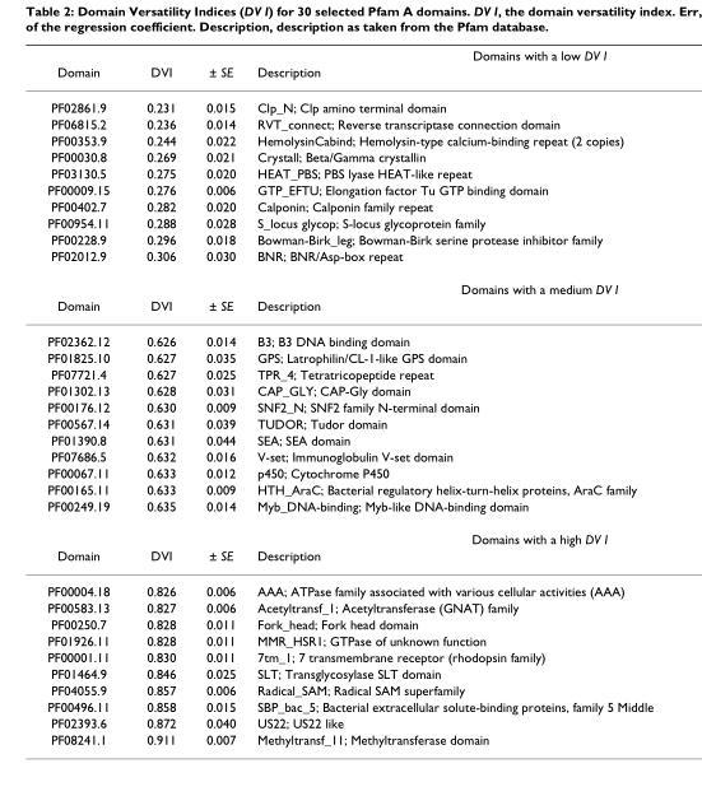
<table><thead><tr><td rowspan="2">Domain</td><td rowspan="2">DVI</td><td rowspan="2">± SE</td><td rowspan="2">Domains with a low DV I Description</td></tr><tr></tr></thead><tbody><tr><td>PF02861.9</td><td>0.231</td><td>0.015</td><td>Clp_N; Clp amino terminal domain</td></tr><tr><td>PF06815.2</td><td>0.236</td><td>0.014</td><td>RVT_connect; Reverse transcriptase connection domain</td></tr><tr><td>PF00353.9</td><td>0.244</td><td>0.022</td><td>HemolysinCabind; Hemolysin-type calcium-binding repeat (2 copies)</td></tr><tr><td>PF00030.8</td><td>0.269</td><td>0.021</td><td>Crystall; Beta/Gamma crystallin</td></tr><tr><td>PF03130.5</td><td>0.275</td><td>0.020</td><td>HEAT_PBS; PBS lyase HEAT-like repeat</td></tr><tr><td>PF00009.15</td><td>0.276</td><td>0.006</td><td>GTP_EFTU; Elongation factor Tu GTP binding domain</td></tr><tr><td>PF00402.7</td><td>0.282</td><td>0.020</td><td>Calponin; Calponin family repeat</td></tr><tr><td>PF00954.11</td><td>0.288</td><td>0.028</td><td>S_locus glycop; S-locus glycoprotein family</td></tr><tr><td>PF00228.9</td><td>0.296</td><td>0.018</td><td>Bowman-Birk_leg; Bowman-Birk serine protease inhibitor family</td></tr><tr><td rowspan="2">PF02012.9</td><td>0.306</td><td>0.030</td><td>BNR; BNR/Asp-box repeat</td></tr><tr><td></td><td></td><td>Domains with a medium DV I</td></tr><tr><td>Domain</td><td>DVI</td><td>± SE</td><td>Description</td></tr><tr><td>PF02362.12</td><td>0.626</td><td>0.014</td><td>B3; B3 DNA binding domain</td></tr><tr><td>PF01825.10</td><td>0.627</td><td>0.035</td><td>GPS; Latrophilin/CL-1-like GPS domain</td></tr><tr><td>PF07721.4</td><td>0.627</td><td>0.025</td><td>TPR_4; Tetratricopeptide repeat</td></tr><tr><td>PF01302.13</td><td>0.628</td><td>0.031</td><td>CAP_GLY; CAP-Gly domain</td></tr><tr><td>PF00176.12</td><td>0.630</td><td>0.009</td><td>SNF2_N; SNF2 family N-terminal domain</td></tr><tr><td>PF00567.14</td><td>0.631</td><td>0.039</td><td>TUDOR; Tudor domain</td></tr><tr><td>PF01390.8</td><td>0.631</td><td>0.044</td><td>SEA; SEA domain</td></tr><tr><td>PF07686.5</td><td>0.632</td><td>0.016</td><td>V-set; Immunoglobulin V-set domain</td></tr><tr><td>PF00067.11</td><td>0.633</td><td>0.012</td><td>p450; Cytochrome P450</td></tr><tr><td>PF00165.11</td><td>0.633</td><td>0.009</td><td>HTH_AraC; Bacterial regulatory helix-turn-helix proteins, AraC family</td></tr><tr><td rowspan="2">PF00249.19</td><td>0.635</td><td>0.014</td><td>Myb_DNA-binding; Myb-like DNA-binding domain</td></tr><tr><td></td><td></td><td>Domains with a high DV I</td></tr><tr><td>Domain</td><td>DVI</td><td>± SE</td><td>Description</td></tr><tr><td>PF00004.18</td><td>0.826</td><td>0.006</td><td>AAA; ATPase family associated with various cellular activities (AAA)</td></tr><tr><td>PF00583.13</td><td>0.827</td><td>0.006</td><td>Acetyltransf_1; Acetyltransferase (GNAT) family</td></tr><tr><td>PF00250.7</td><td>0.828</td><td>0.011</td><td>Fork_head; Fork head domain</td></tr><tr><td>PF01926.11</td><td>0.828</td><td>0.011</td><td>MMR_HSR1; GTPase of unknown function</td></tr><tr><td>PF00001.11</td><td>0.830</td><td>0.011</td><td>7tm_1; 7 transmembrane receptor (rhodopsin family)</td></tr><tr><td>PF01464.9</td><td>0.846</td><td>0.025</td><td>SLT; Transglycosylase SLT domain</td></tr><tr><td>PF04055.9</td><td>0.857</td><td>0.006</td><td>Radical_SAM; Radical SAM superfamily</td></tr><tr><td>PF00496.11</td><td>0.858</td><td>0.015</td><td>SBP_bac_5; Bacterial extracellular solute-binding proteins, family 5 Middle</td></tr><tr><td>PF02393.6</td><td>0.872</td><td>0.040</td><td>US22; US22 like</td></tr><tr><td>PF08241.1</td><td>0.911</td><td>0.007</td><td>Methyltransf_11; Methyltransferase domain</td></tr></tbody></table>